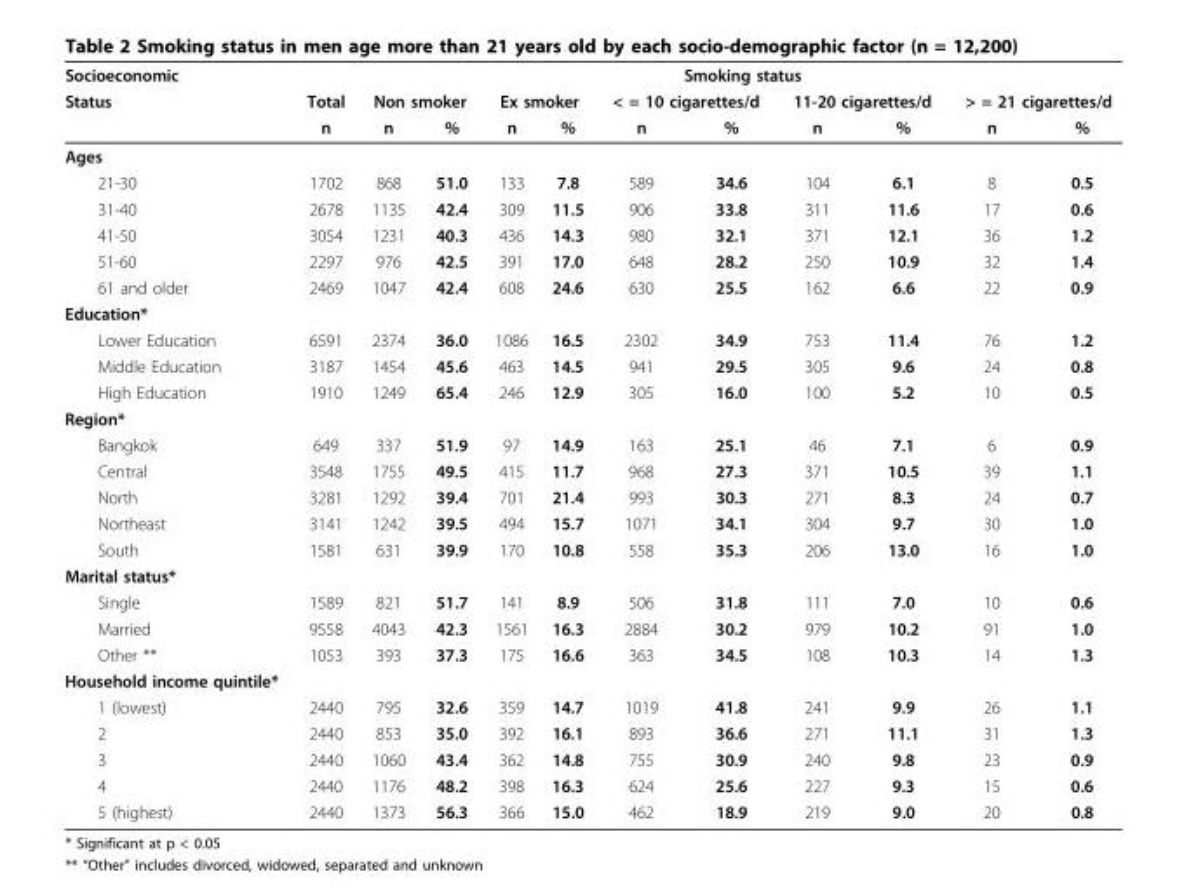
<table><thead><tr><td rowspan="3">Socioeconomic Status</td><td rowspan="3">Total n</td><td colspan="10">Smoking status</td></tr><tr><td colspan="2">Non smoker</td><td colspan="2">Ex smoker</td><td colspan="2">&lt; = 10 cigarettes/d</td><td colspan="2">11-20 cigarettes/d</td><td colspan="2">&gt; = 21 cigarettes/d</td></tr><tr><td>n</td><td>%</td><td>n</td><td>%</td><td>n</td><td>%</td><td>n</td><td>%</td><td>n</td><td>%</td></tr></thead><tbody><tr><td colspan="12">Ages</td></tr><tr><td>21-30</td><td>1702</td><td>868</td><td>51.0</td><td>133</td><td>7.8</td><td>589</td><td>34.6</td><td>104</td><td>6.1</td><td>8</td><td>0.5</td></tr><tr><td>31-40</td><td>2678</td><td>1135</td><td>42.4</td><td>309</td><td>11.5</td><td>906</td><td>33.8</td><td>311</td><td>11.6</td><td>17</td><td>0.6</td></tr><tr><td>41-50</td><td>3054</td><td>1231</td><td>40.3</td><td>436</td><td>14.3</td><td>980</td><td>32.1</td><td>371</td><td>12.1</td><td>36</td><td>1.2</td></tr><tr><td>51-60</td><td>2297</td><td>976</td><td>42.5</td><td>391</td><td>17.0</td><td>648</td><td>28.2</td><td>250</td><td>10.9</td><td>32</td><td>1.4</td></tr><tr><td>61 and older</td><td>2469</td><td>1047</td><td>42.4</td><td>608</td><td>24.6</td><td>630</td><td>25.5</td><td>162</td><td>6.6</td><td>22</td><td>0.9</td></tr><tr><td colspan="12">Education*</td></tr><tr><td>Lower Education</td><td>6591</td><td>2374</td><td>36.0</td><td>1086</td><td>16.5</td><td>2302</td><td>34.9</td><td>753</td><td>11.4</td><td>76</td><td>1.2</td></tr><tr><td>Middle Education</td><td>3187</td><td>1454</td><td>45.6</td><td>463</td><td>14.5</td><td>941</td><td>29.5</td><td>305</td><td>9.6</td><td>24</td><td>0.8</td></tr><tr><td>High Education</td><td>1910</td><td>1249</td><td>65.4</td><td>246</td><td>12.9</td><td>305</td><td>16.0</td><td>100</td><td>5.2</td><td>10</td><td>0.5</td></tr><tr><td colspan="12">Region*</td></tr><tr><td>Bangkok</td><td>649</td><td>337</td><td>51.9</td><td>97</td><td>14.9</td><td>163</td><td>25.1</td><td>46</td><td>7.1</td><td>6</td><td>0.9</td></tr><tr><td>Central</td><td>3548</td><td>1755</td><td>49.5</td><td>415</td><td>11.7</td><td>968</td><td>27.3</td><td>371</td><td>10.5</td><td>39</td><td>1.1</td></tr><tr><td>North</td><td>3281</td><td>1292</td><td>39.4</td><td>701</td><td>21.4</td><td>993</td><td>30.3</td><td>271</td><td>8.3</td><td>24</td><td>0.7</td></tr><tr><td>Northeast</td><td>3141</td><td>1242</td><td>39.5</td><td>494</td><td>15.7</td><td>1071</td><td>34.1</td><td>304</td><td>9.7</td><td>30</td><td>1.0</td></tr><tr><td>South</td><td>1581</td><td>631</td><td>39.9</td><td>170</td><td>10.8</td><td>558</td><td>35.3</td><td>206</td><td>13.0</td><td>16</td><td>1.0</td></tr><tr><td colspan="12">Marital status*</td></tr><tr><td>Single</td><td>1589</td><td>821</td><td>51.7</td><td>141</td><td>8.9</td><td>506</td><td>31.8</td><td>111</td><td>7.0</td><td>10</td><td>0.6</td></tr><tr><td>Married</td><td>9558</td><td>4043</td><td>42.3</td><td>1561</td><td>16.3</td><td>2884</td><td>30.2</td><td>979</td><td>10.2</td><td>91</td><td>1.0</td></tr><tr><td>Other **</td><td>1053</td><td>393</td><td>37.3</td><td>175</td><td>16.6</td><td>363</td><td>34.5</td><td>108</td><td>10.3</td><td>14</td><td>1.3</td></tr><tr><td colspan="12">Household income quintile*</td></tr><tr><td>1 (lowest)</td><td>2440</td><td>795</td><td>32.6</td><td>359</td><td>14.7</td><td>1019</td><td>41.8</td><td>241</td><td>9.9</td><td>26</td><td>1.1</td></tr><tr><td>2</td><td>2440</td><td>853</td><td>35.0</td><td>392</td><td>16.1</td><td>893</td><td>36.6</td><td>271</td><td>11.1</td><td>31</td><td>1.3</td></tr><tr><td>3</td><td>2440</td><td>1060</td><td>43.4</td><td>362</td><td>14.8</td><td>755</td><td>30.9</td><td>240</td><td>9.8</td><td>23</td><td>0.9</td></tr><tr><td>4</td><td>2440</td><td>1176</td><td>48.2</td><td>398</td><td>16.3</td><td>624</td><td>25.6</td><td>227</td><td>9.3</td><td>15</td><td>0.6</td></tr><tr><td>5 (highest)</td><td>2440</td><td>1373</td><td>56.3</td><td>366</td><td>15.0</td><td>462</td><td>18.9</td><td>219</td><td>9.0</td><td>20</td><td>0.8</td></tr></tbody></table>